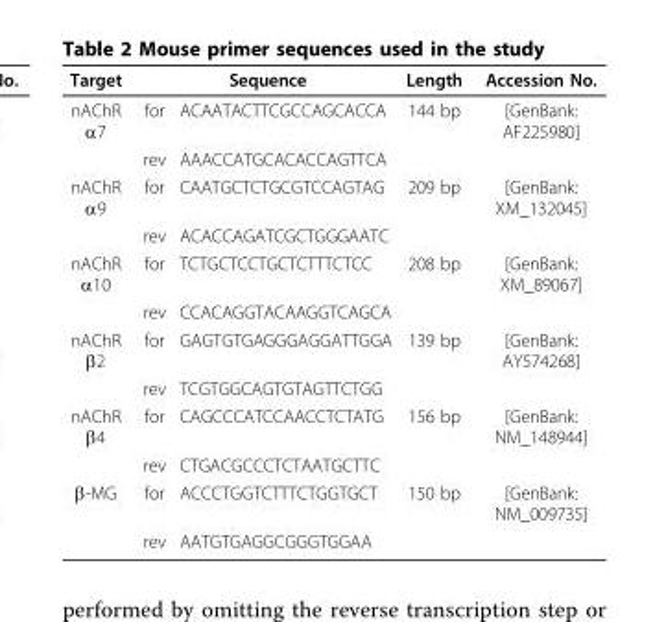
<table><thead><tr><td rowspan="2">Target nAChR α7</td><td colspan="2">Sequence</td><td rowspan="2">Length 144 bp</td><td rowspan="2">Accession No. [GenBank: AF225980]</td></tr><tr><td>for</td><td>ACAATACTTCGCCAGCACCA</td></tr></thead><tbody><tr><td></td><td>rev</td><td>AAACCATGCACACCAGTTCA</td><td></td><td></td></tr><tr><td rowspan="2">nAChR α9</td><td>for</td><td>CAATGCTCTGCGTCCAGTAG</td><td>209 bp</td><td>[GenBank: XM_132045]</td></tr><tr><td>rev</td><td>ACACCAGATCGCTGGGAATC</td><td></td><td></td></tr><tr><td rowspan="2">nAChR α10</td><td>for</td><td>TCTGCTCCTGCTCTTTCTCC</td><td>208 bp</td><td>[GenBank: XM_89067]</td></tr><tr><td>rev</td><td>CCACAGGTACAAGGTCAGCA</td><td></td><td></td></tr><tr><td rowspan="2">nAChR β2</td><td>for</td><td>GAGTGTGAGGGAGGATTGGA</td><td>139 bp</td><td>[GenBank: AY574268]</td></tr><tr><td>rev</td><td>TCGTGGCAGTGTAGTTCTGG</td><td></td><td></td></tr><tr><td rowspan="2">nAChR β4</td><td>for</td><td>CAGCCCATCCAACCTCTATG</td><td>156 bp</td><td>[GenBank: NM_148944]</td></tr><tr><td>rev</td><td>CTGACGCCCTCTAATGCTTC</td><td></td><td></td></tr><tr><td rowspan="2">β-MG</td><td>for</td><td>ACCCTGGTCTTTCTGGTGCT</td><td>150 bp</td><td>[GenBank: NM_009735]</td></tr><tr><td>rev</td><td>AATGTGAGGCGGGTGGAA</td><td></td><td></td></tr></tbody></table>